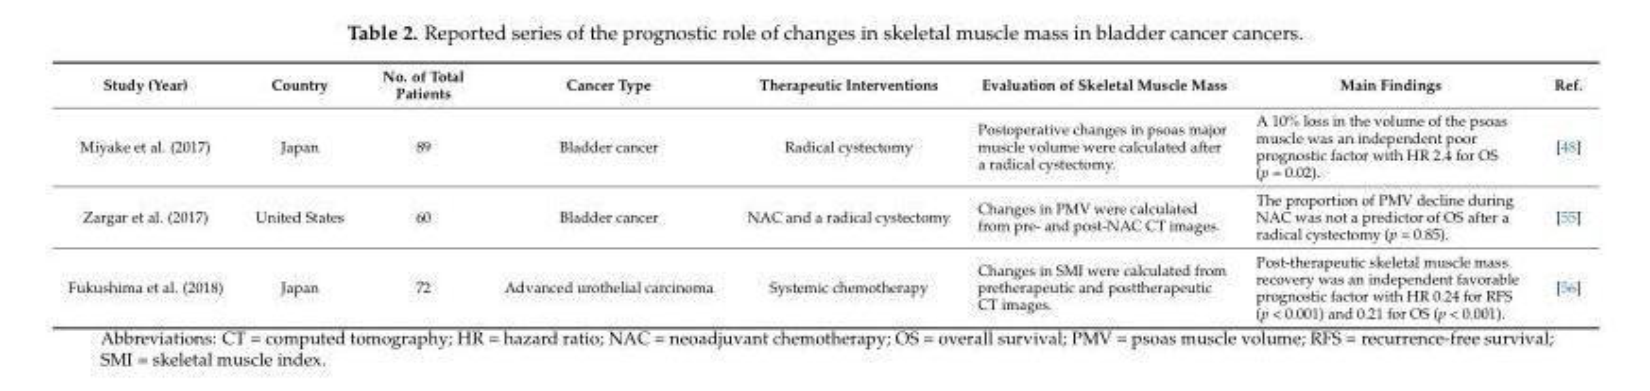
<table><thead><tr><td>Study (Year)</td><td>Country</td><td>No. of Total Patients</td><td>Cancer Type</td><td>Therapeutic Interventions</td><td>Evaluation of Skeletal Muscle Mass</td><td>Main Findings</td><td>Ref.</td></tr></thead><tbody><tr><td>Miyake et al. (2017)</td><td>Japan</td><td>89</td><td>Bladder cancer</td><td>Radical cystectomy</td><td>Postoperative changes in psoas major muscle volume were calculated after a radical cystectomy.</td><td>A 10% loss in the volume of the psoas muscle was an independent poor prognostic factor with HR 2.4 for OS (p = 0.02).</td><td>[48]</td></tr><tr><td>Zargar et al. (2017)</td><td>United States</td><td>60</td><td>Bladder cancer</td><td>NAC and a radical cystectomy</td><td>Changes in PMV were calculated from pre- and post-NAC CT images.</td><td>The proportion of PMV decline during NAC was not a predictor of OS after a radical cystectomy (p = 0.85).</td><td>[55]</td></tr><tr><td>Fukushima et al. (2018)</td><td>Japan</td><td>72</td><td>Advanced urothelial carcinoma</td><td>Systemic chemotherapy</td><td>Changes in SMI were calculated from pretherapeutic and posttherapeutic CT images.</td><td>Post-therapeutic skeletal muscle mass recovery was an independent favorable prognostic factor with HR 0.24 for RFS (p &lt; 0.001) and 0.21 for OS (p &lt; 0.001).</td><td>[56]</td></tr></tbody></table>